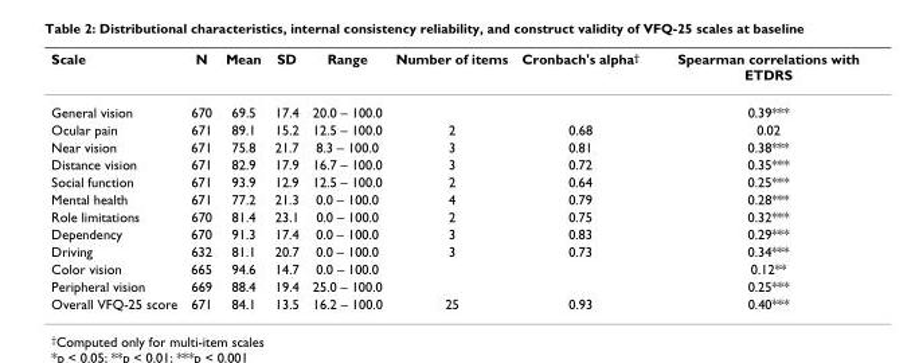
<table><thead><tr><td>Scale</td><td>N</td><td>Mean</td><td>SD</td><td>Range</td><td>Number of items</td><td>Cronbach&#x27;s alpha<sup>†</sup></td><td>Spearman correlations with ETDRS</td></tr></thead><tbody><tr><td>General vision</td><td>670</td><td>69.5</td><td>17.4</td><td>20.0 – 100.0</td><td></td><td></td><td>0.39***</td></tr><tr><td>Ocular pain</td><td>671</td><td>89.1</td><td>15.2</td><td>12.5 – 100.0</td><td>2</td><td>0.68</td><td>0.02</td></tr><tr><td>Near vision</td><td>671</td><td>75.8</td><td>21.7</td><td>8.3 – 100.0</td><td>3</td><td>0.81</td><td>0.38***</td></tr><tr><td>Distance vision</td><td>671</td><td>82.9</td><td>17.9</td><td>16.7 – 100.0</td><td>3</td><td>0.72</td><td>0.35***</td></tr><tr><td>Social function</td><td>671</td><td>93.9</td><td>12.9</td><td>12.5 – 100.0</td><td>2</td><td>0.64</td><td>0.25***</td></tr><tr><td>Mental health</td><td>671</td><td>77.2</td><td>21.3</td><td>0.0 – 100.0</td><td>4</td><td>0.79</td><td>0.28***</td></tr><tr><td>Role limitations</td><td>670</td><td>81.4</td><td>23.1</td><td>0.0 – 100.0</td><td>2</td><td>0.75</td><td>0.32***</td></tr><tr><td>Dependency</td><td>670</td><td>91.3</td><td>17.4</td><td>0.0 – 100.0</td><td>3</td><td>0.83</td><td>0.29***</td></tr><tr><td>Driving</td><td>632</td><td>81.1</td><td>20.7</td><td>0.0 – 100.0</td><td>3</td><td>0.73</td><td>0.34***</td></tr><tr><td>Color vision</td><td>665</td><td>94.6</td><td>14.7</td><td>0.0 – 100.0</td><td></td><td></td><td>0.12**</td></tr><tr><td>Peripheral vision</td><td>669</td><td>88.4</td><td>19.4</td><td>25.0 – 100.0</td><td></td><td></td><td>0.25***</td></tr><tr><td>Overall VFQ-25 score</td><td>671</td><td>84.1</td><td>13.5</td><td>16.2 – 100.0</td><td>25</td><td>0.93</td><td>0.40***</td></tr></tbody></table>